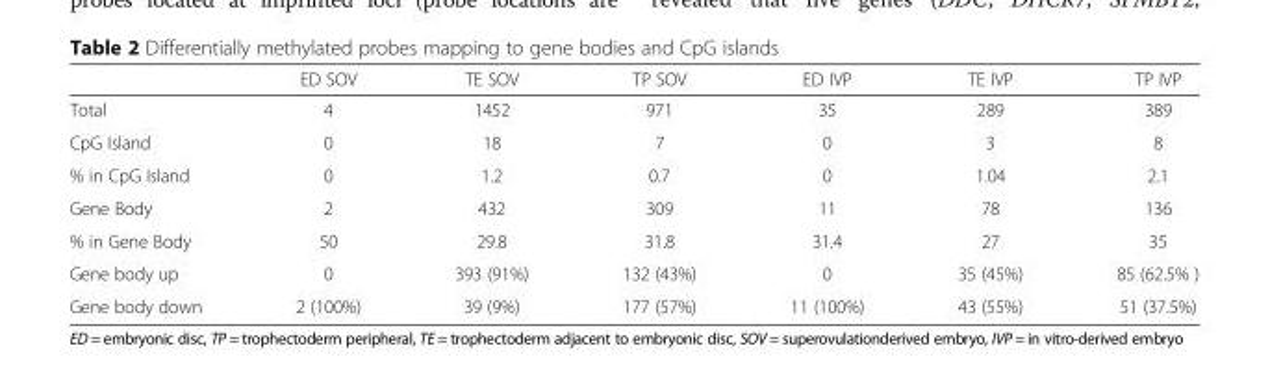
<table><thead><tr><td></td><td>ED SOV</td><td>TE SOV</td><td>TP SOV</td><td>ED IVP</td><td>TE IVP</td><td>TP IVP</td></tr></thead><tbody><tr><td>Total</td><td>4</td><td>1452</td><td>971</td><td>35</td><td>289</td><td>389</td></tr><tr><td>CpG Island</td><td>0</td><td>18</td><td>7</td><td>0</td><td>3</td><td>8</td></tr><tr><td>% in CpG Island</td><td>0</td><td>1.2</td><td>0.7</td><td>0</td><td>1.04</td><td>2.1</td></tr><tr><td>Gene Body</td><td>2</td><td>432</td><td>309</td><td>11</td><td>78</td><td>136</td></tr><tr><td>% in Gene Body</td><td>50</td><td>29.8</td><td>31.8</td><td>31.4</td><td>27</td><td>35</td></tr><tr><td>Gene body up</td><td>0</td><td>393 (91%)</td><td>132 (43%)</td><td>0</td><td>35 (45%)</td><td>85 (62.5% )</td></tr><tr><td>Gene body down</td><td>2 (100%)</td><td>39 (9%)</td><td>177 (57%)</td><td>11 (100%)</td><td>43 (55%)</td><td>51 (37.5%)</td></tr></tbody></table>